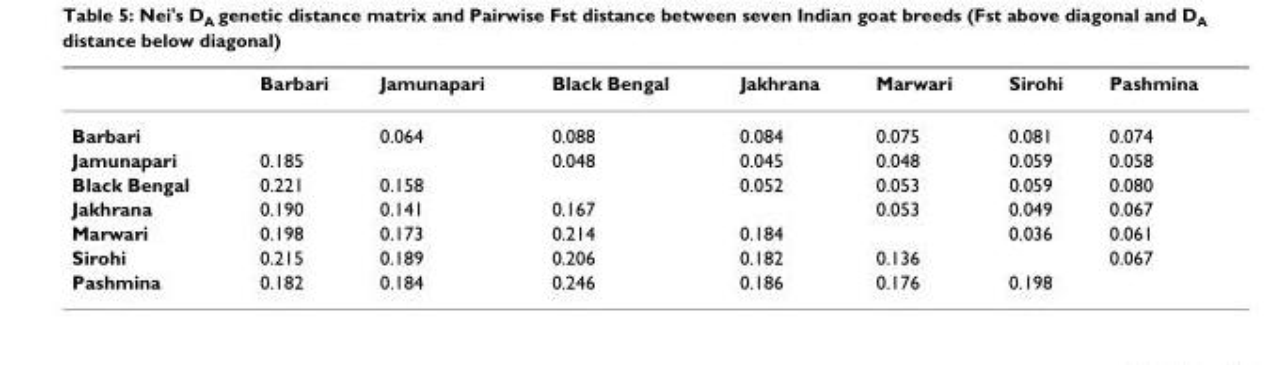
<table><thead><tr><td></td><td>Barbari</td><td>Jamunapari</td><td>Black Bengal</td><td>Jakhrana</td><td>Marwari</td><td>Sirohi</td><td>Pashmina</td></tr></thead><tbody><tr><td>Barbari</td><td></td><td>0.064</td><td>0.088</td><td>0.084</td><td>0.075</td><td>0.081</td><td>0.074</td></tr><tr><td>Jamunapari</td><td>0.185</td><td></td><td>0.048</td><td>0.045</td><td>0.048</td><td>0.059</td><td>0.058</td></tr><tr><td>Black Bengal</td><td>0.221</td><td>0.158</td><td></td><td>0.052</td><td>0.053</td><td>0.059</td><td>0.080</td></tr><tr><td>Jakhrana</td><td>0.190</td><td>0.141</td><td>0.167</td><td></td><td>0.053</td><td>0.049</td><td>0.067</td></tr><tr><td>Marwari</td><td>0.198</td><td>0.173</td><td>0.214</td><td>0.184</td><td></td><td>0.036</td><td>0.061</td></tr><tr><td>Sirohi</td><td>0.215</td><td>0.189</td><td>0.206</td><td>0.182</td><td>0.136</td><td></td><td>0.067</td></tr><tr><td>Pashmina</td><td>0.182</td><td>0.184</td><td>0.246</td><td>0.186</td><td>0.176</td><td>0.198</td><td></td></tr></tbody></table>